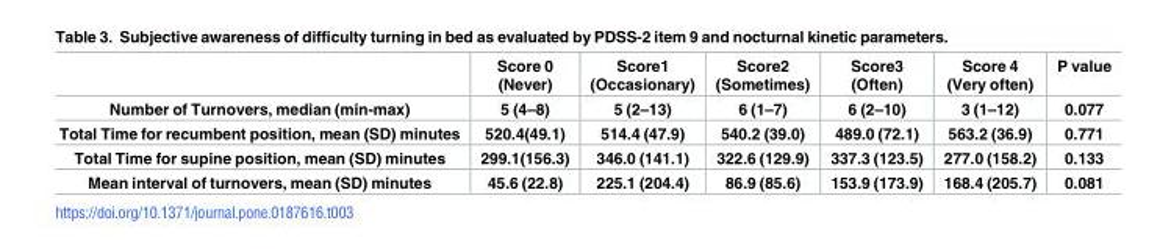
<table><thead><tr><td></td><td>Score 0 (Never)</td><td>Score1 (Occasionary)</td><td>Score2 (Sometimes)</td><td>Score3 (Often)</td><td>Score 4 (Very often)</td><td>P value</td></tr></thead><tbody><tr><td>Number of Turnovers, median (min-max)</td><td>5 (4–8)</td><td>5 (2–13)</td><td>6 (1–7)</td><td>6 (2–10)</td><td>3 (1–12)</td><td>0.077</td></tr><tr><td>Total Time for recumbent position, mean (SD) minutes</td><td>520.4(49.1)</td><td>514.4 (47.9)</td><td>540.2 (39.0)</td><td>489.0 (72.1)</td><td>563.2 (36.9)</td><td>0.771</td></tr><tr><td>Total Time for supine position, mean (SD) minutes</td><td>299.1(156.3)</td><td>346.0 (141.1)</td><td>322.6 (129.9)</td><td>337.3 (123.5)</td><td>277.0 (158.2)</td><td>0.133</td></tr><tr><td>Mean interval of turnovers, mean (SD) minutes</td><td>45.6 (22.8)</td><td>225.1 (204.4)</td><td>86.9 (85.6)</td><td>153.9 (173.9)</td><td>168.4 (205.7)</td><td>0.081</td></tr></tbody></table>